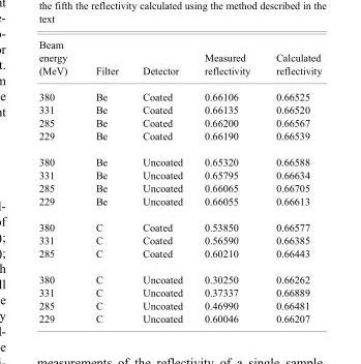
<table><thead><tr><td>Beam energy (MeV)</td><td>Filter</td><td>Detector</td><td>Measured reflectivity</td><td>Calculated reflectivity</td></tr></thead><tbody><tr><td>380</td><td>Be</td><td>Coated</td><td>0.66106</td><td>0.66525</td></tr><tr><td>331</td><td>Be</td><td>Coated</td><td>0.66135</td><td>0.66520</td></tr><tr><td>285</td><td>Be</td><td>Coated</td><td>0.66200</td><td>0.66567</td></tr><tr><td>229</td><td>Be</td><td>Coated</td><td>0.66190</td><td>0.66539</td></tr><tr><td>380</td><td>Be</td><td>Uncoated</td><td>0.65320</td><td>0.66588</td></tr><tr><td>331</td><td>Be</td><td>Uncoated</td><td>0.65795</td><td>0.66634</td></tr><tr><td>285</td><td>Be</td><td>Uncoated</td><td>0.66065</td><td>0.66705</td></tr><tr><td>229</td><td>Be</td><td>Uncoated</td><td>0.66055</td><td>0.66613</td></tr><tr><td>380</td><td>C</td><td>Coated</td><td>0.53850</td><td>0.66577</td></tr><tr><td>331</td><td>C</td><td>Coated</td><td>0.56590</td><td>0.66385</td></tr><tr><td>285</td><td>C</td><td>Coated</td><td>0.60210</td><td>0.66443</td></tr><tr><td>380</td><td>C</td><td>Uncoated</td><td>0.30250</td><td>0.66262</td></tr><tr><td>331</td><td>C</td><td>Uncoated</td><td>0.37337</td><td>0.66889</td></tr><tr><td>285</td><td>C</td><td>Uncoated</td><td>0.46990</td><td>0.66481</td></tr><tr><td>229</td><td>C</td><td>Uncoated</td><td>0.60046</td><td>0.66207</td></tr></tbody></table>